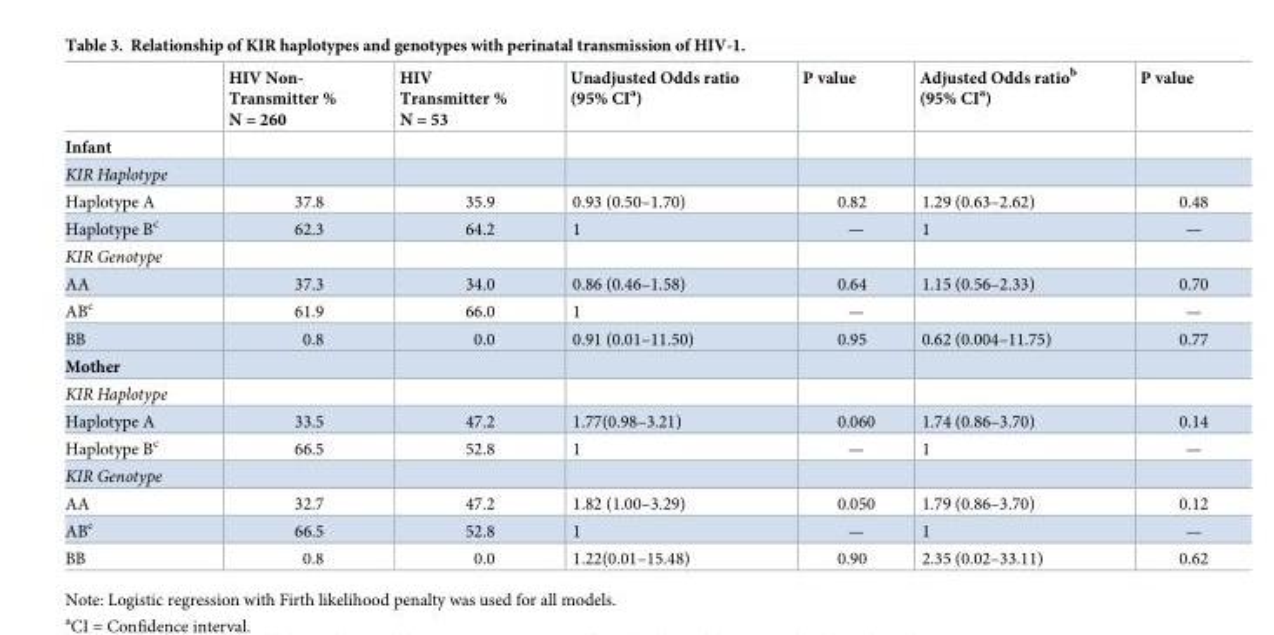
<table><thead><tr><td></td><td>HIV Non- Transmitter % N = 260</td><td>HIV Transmitter % N = 53</td><td>Unadjusted Odds ratio (95% CI<sup>a</sup>)</td><td>P value</td><td>Adjusted Odds ratio<sup>b</sup> (95% CI<sup>a</sup>)</td><td>P value</td></tr></thead><tbody><tr><td colspan="7">Infant</td></tr><tr><td colspan="7">KIR Haplotype</td></tr><tr><td>Haplotype A</td><td>37.8</td><td>35.9</td><td>0.93 (0.50–1.70)</td><td>0.82</td><td>1.29 (0.63–2.62)</td><td>0.48</td></tr><tr><td>Haplotype B<sup>c</sup></td><td>62.3</td><td>64.2</td><td>1</td><td>—</td><td>1</td><td>—</td></tr><tr><td colspan="7">KIR Genotype</td></tr><tr><td>AA</td><td>37.3</td><td>34.0</td><td>0.86 (0.46–1.58)</td><td>0.64</td><td>1.15 (0.56–2.33)</td><td>0.70</td></tr><tr><td>AB<sup>c</sup></td><td>61.9</td><td>66.0</td><td>1</td><td>—</td><td></td><td>—</td></tr><tr><td>BB</td><td>0.8</td><td>0.0</td><td>0.91 (0.01–11.50)</td><td>0.95</td><td>0.62 (0.004–11.75)</td><td>0.77</td></tr><tr><td colspan="7">Mother</td></tr><tr><td colspan="7">KIR Haplotype</td></tr><tr><td>Haplotype A</td><td>33.5</td><td>47.2</td><td>1.77(0.98–3.21)</td><td>0.060</td><td>1.74 (0.86–3.70)</td><td>0.14</td></tr><tr><td>Haplotype B<sup>c</sup></td><td>66.5</td><td>52.8</td><td>1</td><td>—</td><td>1</td><td>—</td></tr><tr><td colspan="7">KIR Genotype</td></tr><tr><td>AA</td><td>32.7</td><td>47.2</td><td>1.82 (1.00–3.29)</td><td>0.050</td><td>1.79 (0.86–3.70)</td><td>0.12</td></tr><tr><td>AB<sup>c</sup></td><td>66.5</td><td>52.8</td><td>1</td><td>—</td><td>1</td><td>—</td></tr><tr><td>BB</td><td>0.8</td><td>0.0</td><td>1.22(0.01–15.48)</td><td>0.90</td><td>2.35 (0.02–33.11)</td><td>0.62</td></tr></tbody></table>